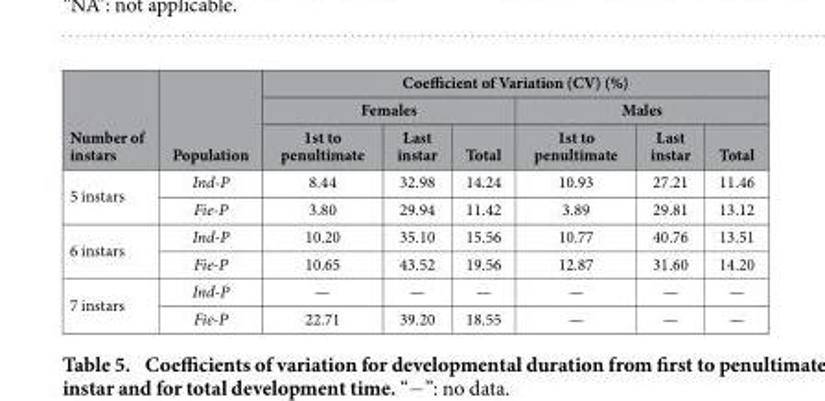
<table><thead><tr><td rowspan="3">Number of instars</td><td rowspan="3">Population</td><td colspan="6">Coefficient of Variation (CV) (%)</td></tr><tr><td colspan="3">Females</td><td colspan="3">Males</td></tr><tr><td>1st to penultimate</td><td>Last instar</td><td>Total</td><td>1st to penultimate</td><td>Last instar</td><td>Total</td></tr></thead><tbody><tr><td rowspan="2">5 instars</td><td>Ind-P</td><td>8.44</td><td>32.98</td><td>14.24</td><td>10.93</td><td>27.21</td><td>11.46</td></tr><tr><td>Fie-P</td><td>3.80</td><td>29.94</td><td>11.42</td><td>3.89</td><td>29.81</td><td>13.12</td></tr><tr><td rowspan="2">6 instars</td><td>Ind-P</td><td>10.20</td><td>35.10</td><td>15.56</td><td>10.77</td><td>40.76</td><td>13.51</td></tr><tr><td>Fie-P</td><td>10.65</td><td>43.52</td><td>19.56</td><td>12.87</td><td>31.60</td><td>14.20</td></tr><tr><td rowspan="2">7 instars</td><td>Ind-P</td><td>—</td><td>—</td><td>—</td><td>—</td><td>—</td><td>—</td></tr><tr><td>Fie-P</td><td>22.71</td><td>39.20</td><td>18.55</td><td>—</td><td>—</td><td>—</td></tr></tbody></table>